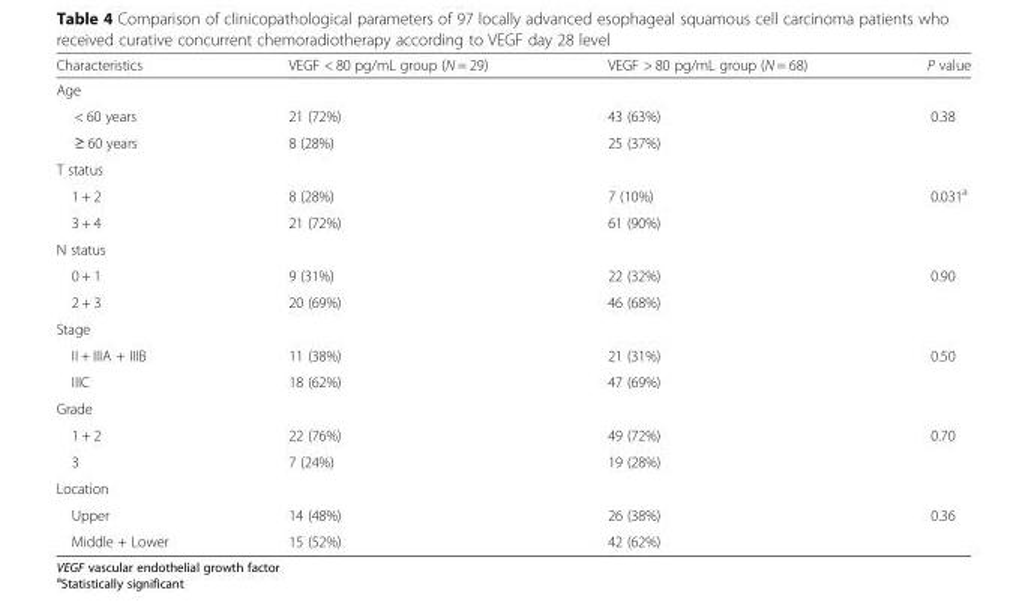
<table><thead><tr><td>Characteristics</td><td>VEGF &lt; 80 pg/mL group (N = 29)</td><td>VEGF &gt; 80 pg/mL group (N = 68)</td><td>P value</td></tr></thead><tbody><tr><td colspan="4">Age</td></tr><tr><td>&lt; 60 years</td><td>21 (72%)</td><td>43 (63%)</td><td>0.38</td></tr><tr><td>≥ 60 years</td><td>8 (28%)</td><td>25 (37%)</td><td></td></tr><tr><td colspan="4">T status</td></tr><tr><td>1 + 2</td><td>8 (28%)</td><td>7 (10%)</td><td>0.031<sup>a</sup></td></tr><tr><td>3 + 4</td><td>21 (72%)</td><td>61 (90%)</td><td></td></tr><tr><td colspan="4">N status</td></tr><tr><td>0 + 1</td><td>9 (31%)</td><td>22 (32%)</td><td>0.90</td></tr><tr><td>2 + 3</td><td>20 (69%)</td><td>46 (68%)</td><td></td></tr><tr><td colspan="4">Stage</td></tr><tr><td>II + IIIA + IIIB</td><td>11 (38%)</td><td>21 (31%)</td><td>0.50</td></tr><tr><td>IIIC</td><td>18 (62%)</td><td>47 (69%)</td><td></td></tr><tr><td colspan="4">Grade</td></tr><tr><td>1 + 2</td><td>22 (76%)</td><td>49 (72%)</td><td>0.70</td></tr><tr><td>3</td><td>7 (24%)</td><td>19 (28%)</td><td></td></tr><tr><td colspan="4">Location</td></tr><tr><td>Upper</td><td>14 (48%)</td><td>26 (38%)</td><td>0.36</td></tr><tr><td>Middle + Lower</td><td>15 (52%)</td><td>42 (62%)</td><td></td></tr></tbody></table>